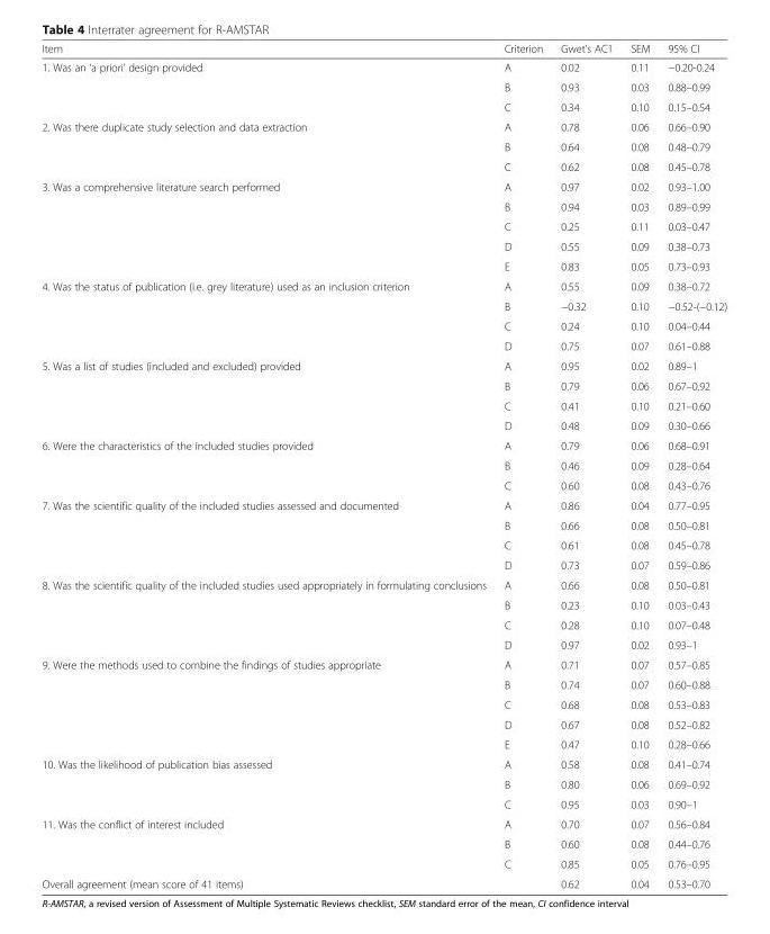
<table><thead><tr><td>Item</td><td>Criterion</td><td>Gwet’s AC1</td><td>SEM</td><td>95% CI</td></tr></thead><tbody><tr><td rowspan="3">1. Was an ‘a priori’ design provided</td><td>A</td><td>0.02</td><td>0.11</td><td>−0.20-0.24</td></tr><tr><td>B</td><td>0.93</td><td>0.03</td><td>0.88–0.99</td></tr><tr><td>C</td><td>0.34</td><td>0.10</td><td>0.15–0.54</td></tr><tr><td rowspan="3">2. Was there duplicate study selection and data extraction</td><td>A</td><td>0.78</td><td>0.06</td><td>0.66–0.90</td></tr><tr><td>B</td><td>0.64</td><td>0.08</td><td>0.48–0.79</td></tr><tr><td>C</td><td>0.62</td><td>0.08</td><td>0.45–0.78</td></tr><tr><td rowspan="5">3. Was a comprehensive literature search performed</td><td>A</td><td>0.97</td><td>0.02</td><td>0.93–1.00</td></tr><tr><td>B</td><td>0.94</td><td>0.03</td><td>0.89–0.99</td></tr><tr><td>C</td><td>0.25</td><td>0.11</td><td>0.03–0.47</td></tr><tr><td>D</td><td>0.55</td><td>0.09</td><td>0.38–0.73</td></tr><tr><td>E</td><td>0.83</td><td>0.05</td><td>0.73–0.93</td></tr><tr><td rowspan="4">4. Was the status of publication (i.e. grey literature) used as an inclusion criterion</td><td>A</td><td>0.55</td><td>0.09</td><td>0.38–0.72</td></tr><tr><td>B</td><td>−0.32</td><td>0.10</td><td>−0.52-(−0.12)</td></tr><tr><td>C</td><td>0.24</td><td>0.10</td><td>0.04–0.44</td></tr><tr><td>D</td><td>0.75</td><td>0.07</td><td>0.61–0.88</td></tr><tr><td rowspan="4">5. Was a list of studies (included and excluded) provided</td><td>A</td><td>0.95</td><td>0.02</td><td>0.89–1</td></tr><tr><td>B</td><td>0.79</td><td>0.06</td><td>0.67–0.92</td></tr><tr><td>C</td><td>0.41</td><td>0.10</td><td>0.21–0.60</td></tr><tr><td>D</td><td>0.48</td><td>0.09</td><td>0.30–0.66</td></tr><tr><td rowspan="3">6. Were the characteristics of the included studies provided</td><td>A</td><td>0.79</td><td>0.06</td><td>0.68–0.91</td></tr><tr><td>B</td><td>0.46</td><td>0.09</td><td>0.28–0.64</td></tr><tr><td>C</td><td>0.60</td><td>0.08</td><td>0.43–0.76</td></tr><tr><td rowspan="4">7. Was the scientific quality of the included studies assessed and documented</td><td>A</td><td>0.86</td><td>0.04</td><td>0.77–0.95</td></tr><tr><td>B</td><td>0.66</td><td>0.08</td><td>0.50–0.81</td></tr><tr><td>C</td><td>0.61</td><td>0.08</td><td>0.45–0.78</td></tr><tr><td>D</td><td>0.73</td><td>0.07</td><td>0.59–0.86</td></tr><tr><td rowspan="4">8. Was the scientific quality of the included studies used appropriately in formulating conclusions</td><td>A</td><td>0.66</td><td>0.08</td><td>0.50–0.81</td></tr><tr><td>B</td><td>0.23</td><td>0.10</td><td>0.03–0.43</td></tr><tr><td>C</td><td>0.28</td><td>0.10</td><td>0.07–0.48</td></tr><tr><td>D</td><td>0.97</td><td>0.02</td><td>0.93–1</td></tr><tr><td rowspan="5">9. Were the methods used to combine the findings of studies appropriate</td><td>A</td><td>0.71</td><td>0.07</td><td>0.57–0.85</td></tr><tr><td>B</td><td>0.74</td><td>0.07</td><td>0.60–0.88</td></tr><tr><td>C</td><td>0.68</td><td>0.08</td><td>0.53–0.83</td></tr><tr><td>D</td><td>0.67</td><td>0.08</td><td>0.52–0.82</td></tr><tr><td>E</td><td>0.47</td><td>0.10</td><td>0.28–0.66</td></tr><tr><td rowspan="3">10. Was the likelihood of publication bias assessed</td><td>A</td><td>0.58</td><td>0.08</td><td>0.41–0.74</td></tr><tr><td>B</td><td>0.80</td><td>0.06</td><td>0.69–0.92</td></tr><tr><td>C</td><td>0.95</td><td>0.03</td><td>0.90–1</td></tr><tr><td rowspan="3">11. Was the conflict of interest included</td><td>A</td><td>0.70</td><td>0.07</td><td>0.56–0.84</td></tr><tr><td>B</td><td>0.60</td><td>0.08</td><td>0.44–0.76</td></tr><tr><td>C</td><td>0.85</td><td>0.05</td><td>0.76–0.95</td></tr><tr><td colspan="2">Overall agreement (mean score of 41 items)</td><td>0.62</td><td>0.04</td><td>0.53–0.70</td></tr></tbody></table>